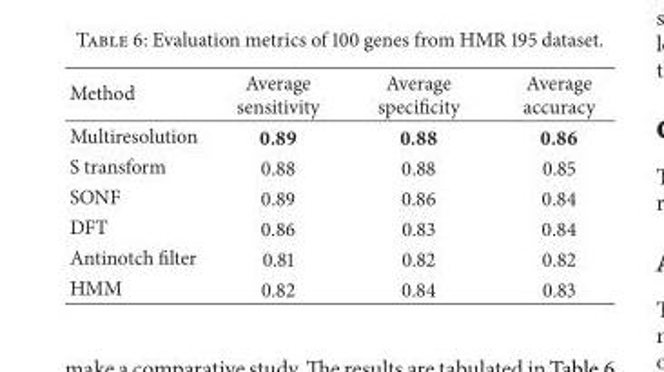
<table><thead><tr><td>Method</td><td>Average sensitivity</td><td>Average specificity</td><td>Average accuracy</td></tr></thead><tbody><tr><td>Multiresolution</td><td>0.89</td><td>0.88</td><td>0.86</td></tr><tr><td>S transform</td><td>0.88</td><td>0.88</td><td>0.85</td></tr><tr><td>SONF</td><td>0.89</td><td>0.86</td><td>0.84</td></tr><tr><td>DFT</td><td>0.86</td><td>0.83</td><td>0.84</td></tr><tr><td>Antinotch filter</td><td>0.81</td><td>0.82</td><td>0.82</td></tr><tr><td>HMM</td><td>0.82</td><td>0.84</td><td>0.83</td></tr></tbody></table>